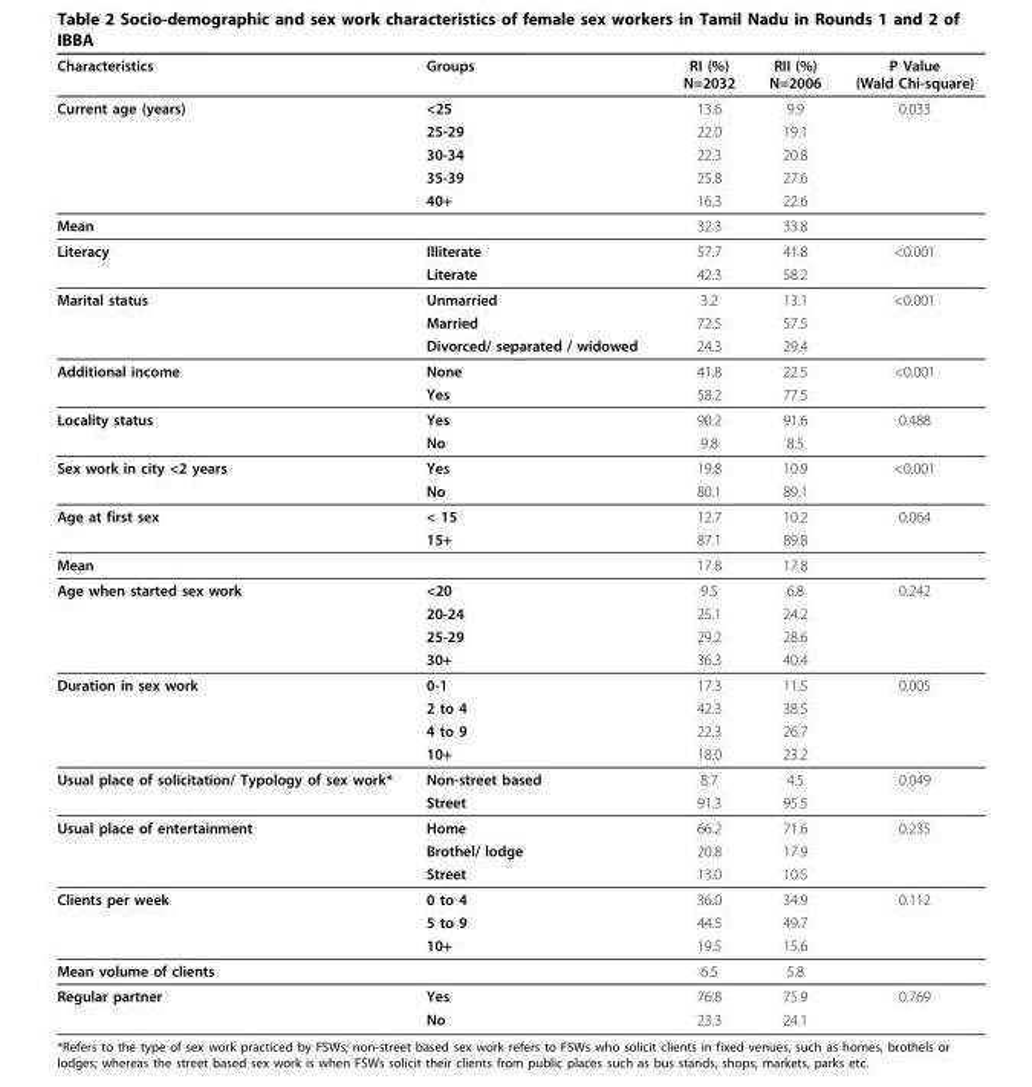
<table><thead><tr><td>Characteristics</td><td>Groups</td><td>RI (%) N=2032</td><td>RII (%) N=2006</td><td>P Value (Wald Chi-square)</td></tr></thead><tbody><tr><td rowspan="5">Current age (years)</td><td>&lt;25</td><td>13.6</td><td>9.9</td><td>0.033</td></tr><tr><td>25-29</td><td>22.0</td><td>19.1</td><td></td></tr><tr><td>30-34</td><td>22.3</td><td>20.8</td><td></td></tr><tr><td>35-39</td><td>25.8</td><td>27.6</td><td></td></tr><tr><td>40+</td><td>16.3</td><td>22.6</td><td></td></tr><tr><td>Mean</td><td></td><td>32.3</td><td>33.8</td><td></td></tr><tr><td rowspan="2">Literacy</td><td>Illiterate</td><td>57.7</td><td>41.8</td><td>&lt;0.001</td></tr><tr><td>Literate</td><td>42.3</td><td>58.2</td><td></td></tr><tr><td rowspan="3">Marital status</td><td>Unmarried</td><td>3.2</td><td>13.1</td><td>&lt;0.001</td></tr><tr><td>Married</td><td>72.5</td><td>57.5</td><td></td></tr><tr><td>Divorced/ separated / widowed</td><td>24.3</td><td>29.4</td><td></td></tr><tr><td rowspan="2">Additional income</td><td>None</td><td>41.8</td><td>22.5</td><td>&lt;0.001</td></tr><tr><td>Yes</td><td>58.2</td><td>77.5</td><td></td></tr><tr><td rowspan="2">Locality status</td><td>Yes</td><td>90.2</td><td>91.6</td><td>0.488</td></tr><tr><td>No</td><td>9.8</td><td>8.5</td><td></td></tr><tr><td rowspan="2">Sex work in city &lt;2 years</td><td>Yes</td><td>19.8</td><td>10.9</td><td>&lt;0.001</td></tr><tr><td>No</td><td>80.1</td><td>89.1</td><td></td></tr><tr><td rowspan="2">Age at first sex</td><td>&lt; 15</td><td>12.7</td><td>10.2</td><td>0.064</td></tr><tr><td>15+</td><td>87.1</td><td>89.8</td><td></td></tr><tr><td>Mean</td><td></td><td>17.8</td><td>17.8</td><td></td></tr><tr><td rowspan="4">Age when started sex work</td><td>&lt;20</td><td>9.5</td><td>6.8</td><td>0.242</td></tr><tr><td>20-24</td><td>25.1</td><td>24.2</td><td></td></tr><tr><td>25-29</td><td>29.2</td><td>28.6</td><td></td></tr><tr><td>30+</td><td>36.3</td><td>40.4</td><td></td></tr><tr><td rowspan="4">Duration in sex work</td><td>0-1</td><td>17.3</td><td>11.5</td><td>0.005</td></tr><tr><td>2 to 4</td><td>42.3</td><td>38.5</td><td></td></tr><tr><td>4 to 9</td><td>22.3</td><td>26.7</td><td></td></tr><tr><td>10+</td><td>18.0</td><td>23.2</td><td></td></tr><tr><td rowspan="2">Usual place of solicitation/ Typology of sex work*</td><td>Non-street based</td><td>8.7</td><td>4.5</td><td>0.049</td></tr><tr><td>Street</td><td>91.3</td><td>95.5</td><td></td></tr><tr><td rowspan="3">Usual place of entertainment</td><td>Home</td><td>66.2</td><td>71.6</td><td>0.235</td></tr><tr><td>Brothel/ lodge</td><td>20.8</td><td>17.9</td><td></td></tr><tr><td>Street</td><td>13.0</td><td>10.5</td><td></td></tr><tr><td rowspan="3">Clients per week</td><td>0 to 4</td><td>36.0</td><td>34.9</td><td>0.112</td></tr><tr><td>5 to 9</td><td>44.5</td><td>49.7</td><td></td></tr><tr><td>10+</td><td>19.5</td><td>15.6</td><td></td></tr><tr><td>Mean volume of clients</td><td></td><td>6.5</td><td>5.8</td><td></td></tr><tr><td rowspan="2">Regular partner</td><td>Yes</td><td>76.8</td><td>75.9</td><td>0.769</td></tr><tr><td>No</td><td>23.3</td><td>24.1</td><td></td></tr></tbody></table>